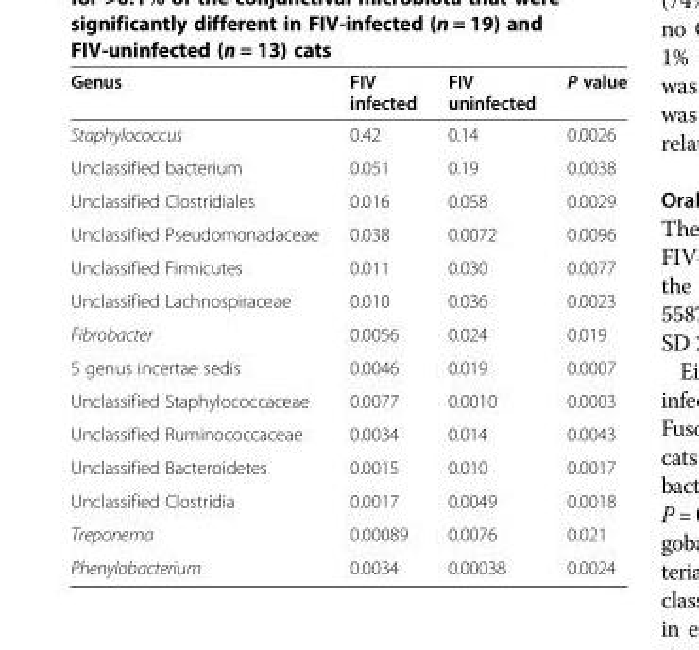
<table><thead><tr><td>Genus</td><td>FIV infected</td><td>FIV uninfected</td><td>P value</td></tr></thead><tbody><tr><td>Staphylococcus</td><td>0.42</td><td>0.14</td><td>0.0026</td></tr><tr><td>Unclassified bacterium</td><td>0.051</td><td>0.19</td><td>0.0038</td></tr><tr><td>Unclassified Clostridiales</td><td>0.016</td><td>0.058</td><td>0.0029</td></tr><tr><td>Unclassified Pseudomonadaceae</td><td>0.038</td><td>0.0072</td><td>0.0096</td></tr><tr><td>Unclassified Firmicutes</td><td>0.011</td><td>0.030</td><td>0.0077</td></tr><tr><td>Unclassified Lachnospiraceae</td><td>0.010</td><td>0.036</td><td>0.0023</td></tr><tr><td>Fibrobacter</td><td>0.0056</td><td>0.024</td><td>0.019</td></tr><tr><td>5 genus incertae sedis</td><td>0.0046</td><td>0.019</td><td>0.0007</td></tr><tr><td>Unclassified Staphylococcaceae</td><td>0.0077</td><td>0.0010</td><td>0.0003</td></tr><tr><td>Unclassified Ruminococcaceae</td><td>0.0034</td><td>0.014</td><td>0.0043</td></tr><tr><td>Unclassified Bacteroidetes</td><td>0.0015</td><td>0.010</td><td>0.0017</td></tr><tr><td>Unclassified Clostridia</td><td>0.0017</td><td>0.0049</td><td>0.0018</td></tr><tr><td>Treponema</td><td>0.00089</td><td>0.0076</td><td>0.021</td></tr><tr><td>Phenylobacterium</td><td>0.0034</td><td>0.00038</td><td>0.0024</td></tr></tbody></table>